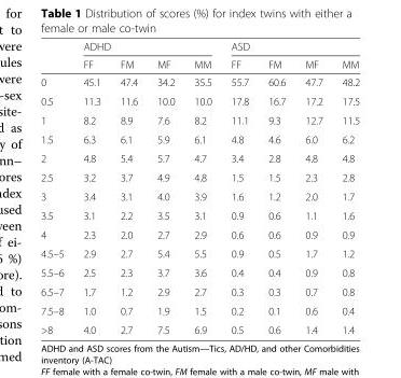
<table><thead><tr><td rowspan="2"></td><td colspan="4">ADHD</td><td colspan="4">ASD</td></tr><tr><td>FF</td><td>FM</td><td>MF</td><td>MM</td><td>FF</td><td>FM</td><td>MF</td><td>MM</td></tr></thead><tbody><tr><td>0</td><td>45.1</td><td>47.4</td><td>34.2</td><td>35.5</td><td>55.7</td><td>60.6</td><td>47.7</td><td>48.2</td></tr><tr><td>0.5</td><td>11.3</td><td>11.6</td><td>10.0</td><td>10.0</td><td>17.8</td><td>16.7</td><td>17.2</td><td>17.5</td></tr><tr><td>1</td><td>8.2</td><td>8.9</td><td>7.6</td><td>8.2</td><td>11.1</td><td>9.3</td><td>12.7</td><td>11.5</td></tr><tr><td>1.5</td><td>6.3</td><td>6.1</td><td>5.9</td><td>6.1</td><td>4.8</td><td>4.6</td><td>6.0</td><td>6.2</td></tr><tr><td>2</td><td>4.8</td><td>5.4</td><td>5.7</td><td>4.7</td><td>3.4</td><td>2.8</td><td>4.8</td><td>4.8</td></tr><tr><td>2.5</td><td>3.2</td><td>3.7</td><td>4.9</td><td>4.8</td><td>1.5</td><td>1.5</td><td>2.3</td><td>2.8</td></tr><tr><td>3</td><td>3.4</td><td>3.1</td><td>4.0</td><td>3.9</td><td>1.6</td><td>1.2</td><td>2.0</td><td>1.7</td></tr><tr><td>3.5</td><td>3.1</td><td>2.2</td><td>3.5</td><td>3.1</td><td>0.9</td><td>0.6</td><td>1.1</td><td>1.6</td></tr><tr><td>4</td><td>2.3</td><td>2.0</td><td>2.7</td><td>2.9</td><td>0.6</td><td>0.6</td><td>0.9</td><td>0.9</td></tr><tr><td>4.5–5</td><td>2.9</td><td>2.7</td><td>5.4</td><td>5.5</td><td>0.9</td><td>0.5</td><td>1.7</td><td>1.2</td></tr><tr><td>5.5–6</td><td>2.5</td><td>2.3</td><td>3.7</td><td>3.6</td><td>0.4</td><td>0.4</td><td>0.9</td><td>0.8</td></tr><tr><td>6.5–7</td><td>1.7</td><td>1.2</td><td>2.9</td><td>2.7</td><td>0.3</td><td>0.3</td><td>0.7</td><td>0.8</td></tr><tr><td>7.5–8</td><td>1.0</td><td>0.7</td><td>1.9</td><td>1.5</td><td>0.2</td><td>0.1</td><td>0.6</td><td>0.4</td></tr><tr><td>&gt;8</td><td>4.0</td><td>2.7</td><td>7.5</td><td>6.9</td><td>0.5</td><td>0.6</td><td>1.4</td><td>1.4</td></tr></tbody></table>